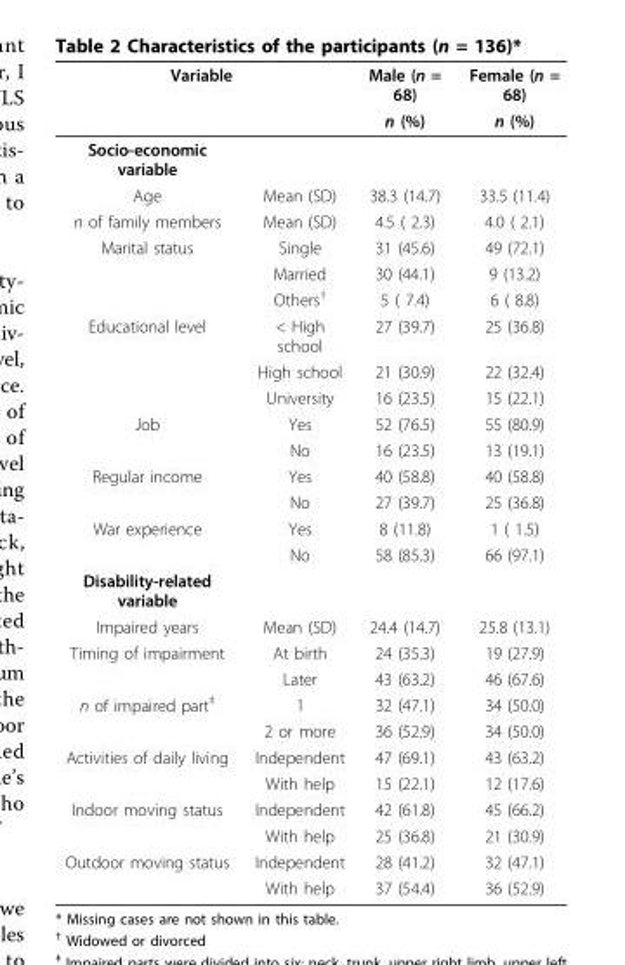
<table><thead><tr><td colspan="2">Variable</td><td rowspan="2">Male (n = 68) n (%)</td><td rowspan="2">Female (n = 68) n (%)</td></tr><tr><td></td><td></td></tr></thead><tbody><tr><td colspan="4">Socio-economic variable</td></tr><tr><td>Age</td><td>Mean (SD)</td><td>38.3 (14.7)</td><td>33.5 (11.4)</td></tr><tr><td>n of family members</td><td>Mean (SD)</td><td>4.5 ( 2.3)</td><td>4.0 ( 2.1)</td></tr><tr><td rowspan="3">Marital status</td><td>Single</td><td>31 (45.6)</td><td>49 (72.1)</td></tr><tr><td>Married</td><td>30 (44.1)</td><td>9 (13.2)</td></tr><tr><td>Others<sup>†</sup></td><td>5 ( 7.4)</td><td>6 ( 8.8)</td></tr><tr><td rowspan="3">Educational level</td><td>&lt; High school</td><td>27 (39.7)</td><td>25 (36.8)</td></tr><tr><td>High school</td><td>21 (30.9)</td><td>22 (32.4)</td></tr><tr><td>University</td><td>16 (23.5)</td><td>15 (22.1)</td></tr><tr><td rowspan="2">Job</td><td>Yes</td><td>52 (76.5)</td><td>55 (80.9)</td></tr><tr><td>No</td><td>16 (23.5)</td><td>13 (19.1)</td></tr><tr><td rowspan="2">Regular income</td><td>Yes</td><td>40 (58.8)</td><td>40 (58.8)</td></tr><tr><td>No</td><td>27 (39.7)</td><td>25 (36.8)</td></tr><tr><td rowspan="2">War experience</td><td>Yes</td><td>8 (11.8)</td><td>1 ( 1.5)</td></tr><tr><td>No</td><td>58 (85.3)</td><td>66 (97.1)</td></tr><tr><td colspan="4">Disability-related variable</td></tr><tr><td>Impaired years</td><td>Mean (SD)</td><td>24.4 (14.7)</td><td>25.8 (13.1)</td></tr><tr><td rowspan="2">Timing of impairment</td><td>At birth</td><td>24 (35.3)</td><td>19 (27.9)</td></tr><tr><td>Later</td><td>43 (63.2)</td><td>46 (67.6)</td></tr><tr><td rowspan="2">n of impaired part<sup>‡</sup></td><td>1</td><td>32 (47.1)</td><td>34 (50.0)</td></tr><tr><td>2 or more</td><td>36 (52.9)</td><td>34 (50.0)</td></tr><tr><td rowspan="2">Activities of daily living</td><td>Independent</td><td>47 (69.1)</td><td>43 (63.2)</td></tr><tr><td>With help</td><td>15 (22.1)</td><td>12 (17.6)</td></tr><tr><td rowspan="2">Indoor moving status</td><td>Independent</td><td>42 (61.8)</td><td>45 (66.2)</td></tr><tr><td>With help</td><td>25 (36.8)</td><td>21 (30.9)</td></tr><tr><td rowspan="2">Outdoor moving status</td><td>Independent</td><td>28 (41.2)</td><td>32 (47.1)</td></tr><tr><td>With help</td><td>37 (54.4)</td><td>36 (52.9)</td></tr></tbody></table>